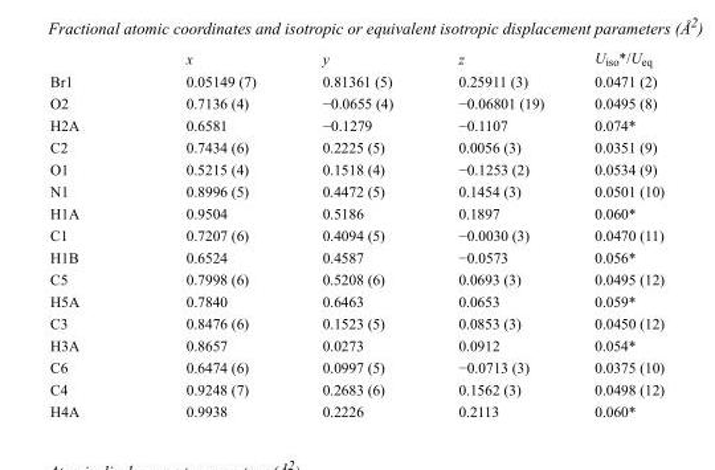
<table><thead><tr><td></td><td>x</td><td>y</td><td>z</td><td>U<sub>iso</sub>*/U<sub>eq</sub></td></tr></thead><tbody><tr><td>Br1</td><td>0.05149 (7)</td><td>0.81361 (5)</td><td>0.25911 (3)</td><td>0.0471 (2)</td></tr><tr><td>O2</td><td>0.7136 (4)</td><td>−0.0655 (4)</td><td>−0.06801 (19)</td><td>0.0495 (8)</td></tr><tr><td>H2A</td><td>0.6581</td><td>−0.1279</td><td>−0.1107</td><td>0.074*</td></tr><tr><td>C2</td><td>0.7434 (6)</td><td>0.2225 (5)</td><td>0.0056 (3)</td><td>0.0351 (9)</td></tr><tr><td>O1</td><td>0.5215 (4)</td><td>0.1518 (4)</td><td>−0.1253 (2)</td><td>0.0534 (9)</td></tr><tr><td>N1</td><td>0.8996 (5)</td><td>0.4472 (5)</td><td>0.1454 (3)</td><td>0.0501 (10)</td></tr><tr><td>H1A</td><td>0.9504</td><td>0.5186</td><td>0.1897</td><td>0.060*</td></tr><tr><td>C1</td><td>0.7207 (6)</td><td>0.4094 (5)</td><td>−0.0030 (3)</td><td>0.0470 (11)</td></tr><tr><td>H1B</td><td>0.6524</td><td>0.4587</td><td>−0.0573</td><td>0.056*</td></tr><tr><td>C5</td><td>0.7998 (6)</td><td>0.5208 (6)</td><td>0.0693 (3)</td><td>0.0495 (12)</td></tr><tr><td>H5A</td><td>0.7840</td><td>0.6463</td><td>0.0653</td><td>0.059*</td></tr><tr><td>C3</td><td>0.8476 (6)</td><td>0.1523 (5)</td><td>0.0853 (3)</td><td>0.0450 (12)</td></tr><tr><td>H3A</td><td>0.8657</td><td>0.0273</td><td>0.0912</td><td>0.054*</td></tr><tr><td>C6</td><td>0.6474 (6)</td><td>0.0997 (5)</td><td>−0.0713 (3)</td><td>0.0375 (10)</td></tr><tr><td>C4</td><td>0.9248 (7)</td><td>0.2683 (6)</td><td>0.1562 (3)</td><td>0.0498 (12)</td></tr><tr><td>H4A</td><td>0.9938</td><td>0.2226</td><td>0.2113</td><td>0.060*</td></tr></tbody></table>